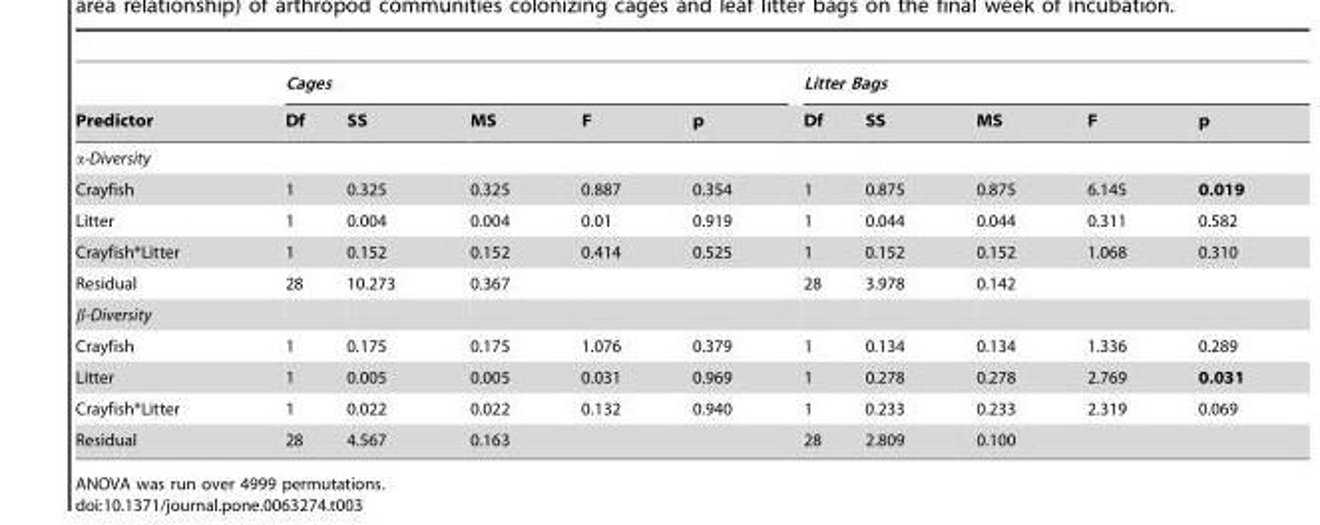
<table><thead><tr><td rowspan="2">Predictor</td><td colspan="5">Cages</td><td colspan="5">Litter Bags</td></tr><tr><td>Df</td><td>SS</td><td>MS</td><td>F</td><td>p</td><td>Df</td><td>SS</td><td>MS</td><td>F</td><td>p</td></tr></thead><tbody><tr><td colspan="11">α-Diversity</td></tr><tr><td>Crayfish</td><td>1</td><td>0.325</td><td>0.325</td><td>0.887</td><td>0.354</td><td>1</td><td>0.875</td><td>0.875</td><td>6.145</td><td>0.019</td></tr><tr><td>Litter</td><td>1</td><td>0.004</td><td>0.004</td><td>0.01</td><td>0.919</td><td>1</td><td>0.044</td><td>0.044</td><td>0.311</td><td>0.582</td></tr><tr><td>Crayfish*Litter</td><td>1</td><td>0.152</td><td>0.152</td><td>0.414</td><td>0.525</td><td>1</td><td>0.152</td><td>0.152</td><td>1.068</td><td>0.310</td></tr><tr><td>Residual</td><td>28</td><td>10.273</td><td>0.367</td><td></td><td></td><td>28</td><td>3.978</td><td>0.142</td><td></td><td></td></tr><tr><td colspan="11">β-Diversity</td></tr><tr><td>Crayfish</td><td>1</td><td>0.175</td><td>0.175</td><td>1.076</td><td>0.379</td><td>1</td><td>0.134</td><td>0.134</td><td>1.336</td><td>0.289</td></tr><tr><td>Litter</td><td>1</td><td>0.005</td><td>0.005</td><td>0.031</td><td>0.969</td><td>1</td><td>0.278</td><td>0.278</td><td>2.769</td><td>0.031</td></tr><tr><td>Crayfish*Litter</td><td>1</td><td>0.022</td><td>0.022</td><td>0.132</td><td>0.940</td><td>1</td><td>0.233</td><td>0.233</td><td>2.319</td><td>0.069</td></tr><tr><td>Residual</td><td>28</td><td>4.567</td><td>0.163</td><td></td><td></td><td>28</td><td>2.809</td><td>0.100</td><td></td><td></td></tr></tbody></table>